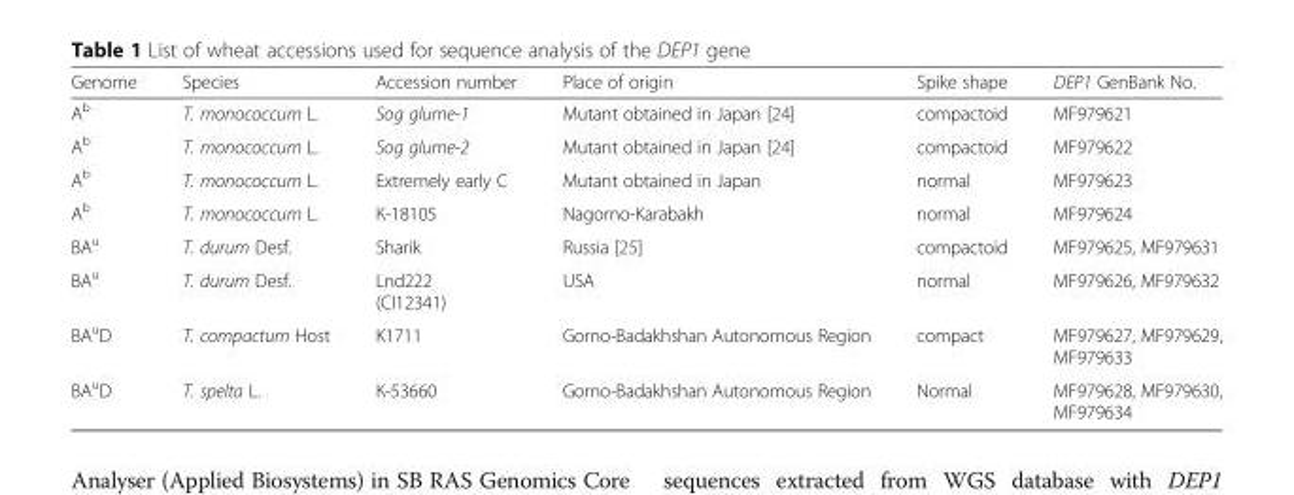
<table><thead><tr><td>Genome</td><td>Species</td><td>Accession number</td><td>Place of origin</td><td>Spike shape</td><td>DEP1 GenBank No.</td></tr></thead><tbody><tr><td>A<sup>b</sup></td><td>T. monococcum L.</td><td>Sog glume-1</td><td>Mutant obtained in Japan [24]</td><td>compactoid</td><td>MF979621</td></tr><tr><td>A<sup>b</sup></td><td>T. monococcum L.</td><td>Sog glume-2</td><td>Mutant obtained in Japan [24]</td><td>compactoid</td><td>MF979622</td></tr><tr><td>A<sup>b</sup></td><td>T. monococcum L.</td><td>Extremely early C</td><td>Mutant obtained in Japan</td><td>normal</td><td>MF979623</td></tr><tr><td>A<sup>b</sup></td><td>T. monococcum L.</td><td>К-18105</td><td>Nagorno-Karabakh</td><td>normal</td><td>MF979624</td></tr><tr><td>BA<sup>u</sup></td><td>T. durum Desf.</td><td>Sharik</td><td>Russia [25]</td><td>compactoid</td><td>MF979625, MF979631</td></tr><tr><td>BA<sup>u</sup></td><td>T. durum Desf.</td><td>Lnd222 (CI12341)</td><td>USA</td><td>normal</td><td>MF979626, MF979632</td></tr><tr><td>BA<sup>u</sup>D</td><td>T. compactum Host</td><td>K1711</td><td>Gorno-Badakhshan Autonomous Region</td><td>compact</td><td>MF979627, MF979629, MF979633</td></tr><tr><td>BA<sup>u</sup>D</td><td>T. spelta L.</td><td>К-53660</td><td>Gorno-Badakhshan Autonomous Region</td><td>Normal</td><td>MF979628, MF979630, MF979634</td></tr></tbody></table>